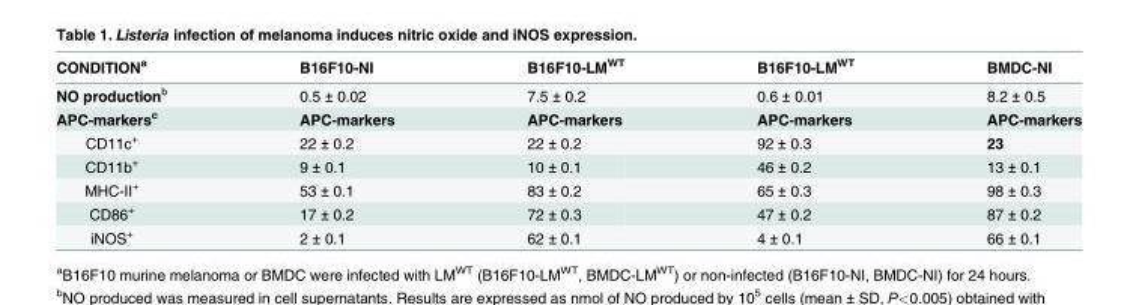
<table><thead><tr><td>CONDITION<sup>a</sup></td><td>B16F10-NI</td><td>B16F10-LM<sup>WT</sup></td><td>B16F10-LM<sup>WT</sup></td><td>BMDC-NI</td></tr></thead><tbody><tr><td>NO production<sup>b</sup></td><td>0.5 ± 0.02</td><td>7.5 ± 0.2</td><td>0.6 ± 0.01</td><td>8.2 ± 0.5</td></tr><tr><td>APC-markers<sup>c</sup></td><td>APC-markers</td><td>APC-markers</td><td>APC-markers</td><td>APC-markers</td></tr><tr><td>CD11c<sup>+</sup></td><td>22 ± 0.2</td><td>22 ± 0.2</td><td>92 ± 0.3</td><td>23</td></tr><tr><td>CD11b<sup>+</sup></td><td>9 ± 0.1</td><td>10 ± 0.1</td><td>46 ± 0.2</td><td>13 ± 0.1</td></tr><tr><td>MHC-II<sup>+</sup></td><td>53 ± 0.1</td><td>83 ± 0.2</td><td>65 ± 0.3</td><td>98 ± 0.3</td></tr><tr><td>CD86<sup>+</sup></td><td>17 ± 0.2</td><td>72 ± 0.3</td><td>47 ± 0.2</td><td>87 ± 0.2</td></tr><tr><td>iNOS<sup>+</sup></td><td>2 ± 0.1</td><td>62 ± 0.1</td><td>4 ± 0.1</td><td>66 ± 0.1</td></tr></tbody></table>